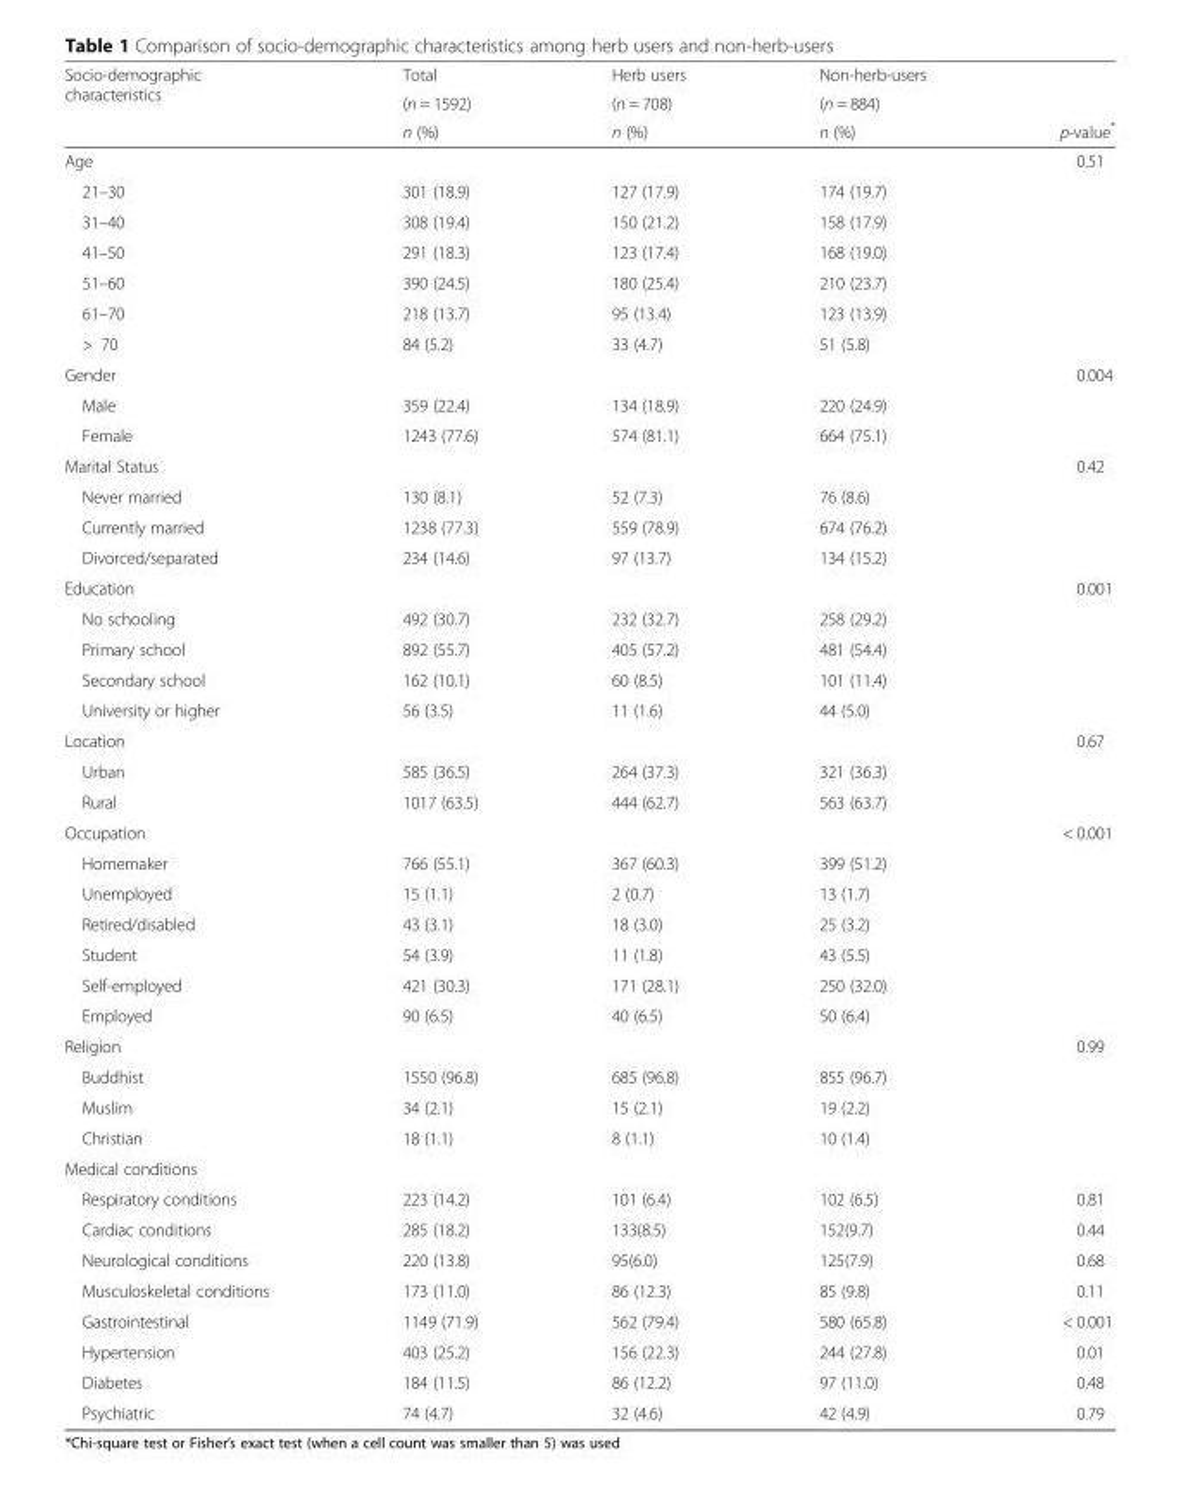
<table><thead><tr><td rowspan="3">Socio-demographic characteristics</td><td rowspan="3">Total (n = 1592) n (%)</td><td rowspan="3">Herb users (n = 708) n (%)</td><td rowspan="3">Non-herb-users (n = 884) n (%)</td><td rowspan="3">p-value*</td></tr><tr></tr><tr></tr></thead><tbody><tr><td>Age</td><td></td><td></td><td></td><td>0.51</td></tr><tr><td>21–30</td><td>301 (18.9)</td><td>127 (17.9)</td><td>174 (19.7)</td><td></td></tr><tr><td>31–40</td><td>308 (19.4)</td><td>150 (21.2)</td><td>158 (17.9)</td><td></td></tr><tr><td>41–50</td><td>291 (18.3)</td><td>123 (17.4)</td><td>168 (19.0)</td><td></td></tr><tr><td>51–60</td><td>390 (24.5)</td><td>180 (25.4)</td><td>210 (23.7)</td><td></td></tr><tr><td>61–70</td><td>218 (13.7)</td><td>95 (13.4)</td><td>123 (13.9)</td><td></td></tr><tr><td>&gt; 70</td><td>84 (5.2)</td><td>33 (4.7)</td><td>51 (5.8)</td><td></td></tr><tr><td>Gender</td><td></td><td></td><td></td><td>0.004</td></tr><tr><td>Male</td><td>359 (22.4)</td><td>134 (18.9)</td><td>220 (24.9)</td><td></td></tr><tr><td>Female</td><td>1243 (77.6)</td><td>574 (81.1)</td><td>664 (75.1)</td><td></td></tr><tr><td>Marital Status</td><td></td><td></td><td></td><td>0.42</td></tr><tr><td>Never married</td><td>130 (8.1)</td><td>52 (7.3)</td><td>76 (8.6)</td><td></td></tr><tr><td>Currently married</td><td>1238 (77.3)</td><td>559 (78.9)</td><td>674 (76.2)</td><td></td></tr><tr><td>Divorced/separated</td><td>234 (14.6)</td><td>97 (13.7)</td><td>134 (15.2)</td><td></td></tr><tr><td>Education</td><td></td><td></td><td></td><td>0.001</td></tr><tr><td>No schooling</td><td>492 (30.7)</td><td>232 (32.7)</td><td>258 (29.2)</td><td></td></tr><tr><td>Primary school</td><td>892 (55.7)</td><td>405 (57.2)</td><td>481 (54.4)</td><td></td></tr><tr><td>Secondary school</td><td>162 (10.1)</td><td>60 (8.5)</td><td>101 (11.4)</td><td></td></tr><tr><td>University or higher</td><td>56 (3.5)</td><td>11 (1.6)</td><td>44 (5.0)</td><td></td></tr><tr><td>Location</td><td></td><td></td><td></td><td>0.67</td></tr><tr><td>Urban</td><td>585 (36.5)</td><td>264 (37.3)</td><td>321 (36.3)</td><td></td></tr><tr><td>Rural</td><td>1017 (63.5)</td><td>444 (62.7)</td><td>563 (63.7)</td><td></td></tr><tr><td>Occupation</td><td></td><td></td><td></td><td>&lt; 0.001</td></tr><tr><td>Homemaker</td><td>766 (55.1)</td><td>367 (60.3)</td><td>399 (51.2)</td><td></td></tr><tr><td>Unemployed</td><td>15 (1.1)</td><td>2 (0.7)</td><td>13 (1.7)</td><td></td></tr><tr><td>Retired/disabled</td><td>43 (3.1)</td><td>18 (3.0)</td><td>25 (3.2)</td><td></td></tr><tr><td>Student</td><td>54 (3.9)</td><td>11 (1.8)</td><td>43 (5.5)</td><td></td></tr><tr><td>Self-employed</td><td>421 (30.3)</td><td>171 (28.1)</td><td>250 (32.0)</td><td></td></tr><tr><td>Employed</td><td>90 (6.5)</td><td>40 (6.5)</td><td>50 (6.4)</td><td></td></tr><tr><td>Religion</td><td></td><td></td><td></td><td>0.99</td></tr><tr><td>Buddhist</td><td>1550 (96.8)</td><td>685 (96.8)</td><td>855 (96.7)</td><td></td></tr><tr><td>Muslim</td><td>34 (2.1)</td><td>15 (2.1)</td><td>19 (2.2)</td><td></td></tr><tr><td>Christian</td><td>18 (1.1)</td><td>8 (1.1)</td><td>10 (1.4)</td><td></td></tr><tr><td colspan="5">Medical conditions</td></tr><tr><td>Respiratory conditions</td><td>223 (14.2)</td><td>101 (6.4)</td><td>102 (6.5)</td><td>0.81</td></tr><tr><td>Cardiac conditions</td><td>285 (18.2)</td><td>133(8.5)</td><td>152(9.7)</td><td>0.44</td></tr><tr><td>Neurological conditions</td><td>220 (13.8)</td><td>95(6.0)</td><td>125(7.9)</td><td>0.68</td></tr><tr><td>Musculoskeletal conditions</td><td>173 (11.0)</td><td>86 (12.3)</td><td>85 (9.8)</td><td>0.11</td></tr><tr><td>Gastrointestinal</td><td>1149 (71.9)</td><td>562 (79.4)</td><td>580 (65.8)</td><td>&lt; 0.001</td></tr><tr><td>Hypertension</td><td>403 (25.2)</td><td>156 (22.3)</td><td>244 (27.8)</td><td>0.01</td></tr><tr><td>Diabetes</td><td>184 (11.5)</td><td>86 (12.2)</td><td>97 (11.0)</td><td>0.48</td></tr><tr><td>Psychiatric</td><td>74 (4.7)</td><td>32 (4.6)</td><td>42 (4.9)</td><td>0.79</td></tr></tbody></table>